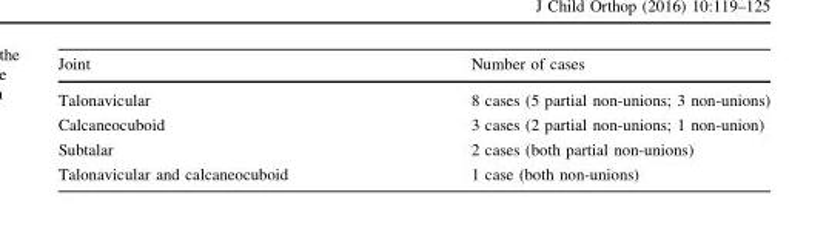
<table><thead><tr><td>Joint</td><td>Number of cases</td></tr></thead><tbody><tr><td>Talonavicular</td><td>8 cases (5 partial non-unions; 3 non-unions)</td></tr><tr><td>Calcaneocuboid</td><td>3 cases (2 partial non-unions; 1 non-union)</td></tr><tr><td>Subtalar</td><td>2 cases (both partial non-unions)</td></tr><tr><td>Talonavicular and calcaneocuboid</td><td>1 case (both non-unions)</td></tr></tbody></table>